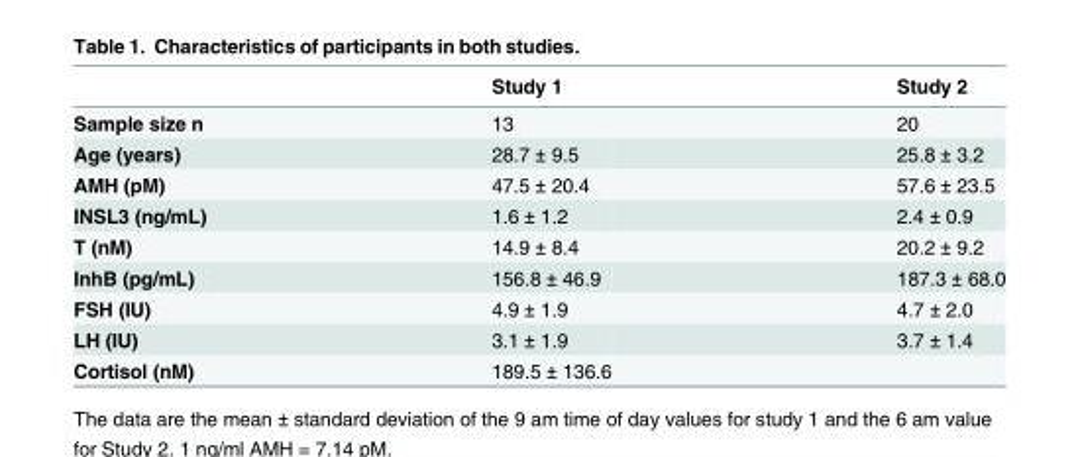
<table><thead><tr><td></td><td>Study 1</td><td>Study 2</td></tr></thead><tbody><tr><td>Sample size n</td><td>13</td><td>20</td></tr><tr><td>Age (years)</td><td>28.7 ± 9.5</td><td>25.8 ± 3.2</td></tr><tr><td>AMH (pM)</td><td>47.5 ± 20.4</td><td>57.6 ± 23.5</td></tr><tr><td>INSL3 (ng/mL)</td><td>1.6 ± 1.2</td><td>2.4 ± 0.9</td></tr><tr><td>T (nM)</td><td>14.9 ± 8.4</td><td>20.2 ± 9.2</td></tr><tr><td>InhB (pg/mL)</td><td>156.8 ± 46.9</td><td>187.3 ± 68.0</td></tr><tr><td>FSH (IU)</td><td>4.9 ± 1.9</td><td>4.7 ± 2.0</td></tr><tr><td>LH (IU)</td><td>3.1 ± 1.9</td><td>3.7 ± 1.4</td></tr><tr><td>Cortisol (nM)</td><td>189.5 ± 136.6</td><td></td></tr></tbody></table>